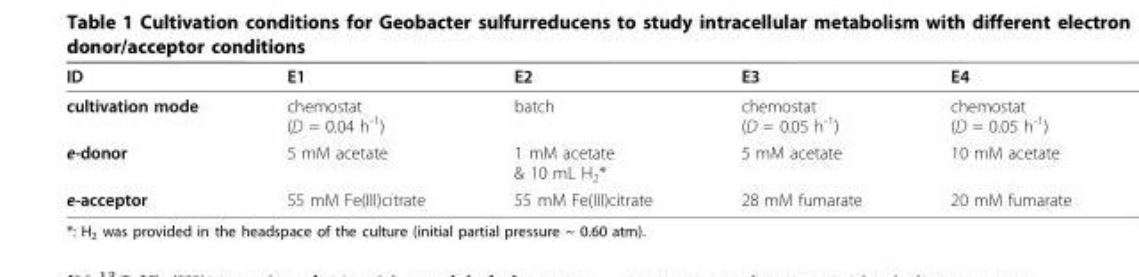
<table><thead><tr><td>ID</td><td>E1</td><td>E2</td><td>E3</td><td>E4</td></tr></thead><tbody><tr><td>cultivation mode</td><td>chemostat (D = 0.04 h<sup>-1</sup>)</td><td>batch</td><td>chemostat (D = 0.05 h<sup>-1</sup>)</td><td>chemostat (D = 0.05 h<sup>-1</sup>)</td></tr><tr><td>e-donor</td><td>5 mM acetate</td><td>1 mM acetate &amp; 10 mL H<sub>2</sub>*</td><td>5 mM acetate</td><td>10 mM acetate</td></tr><tr><td>e-acceptor</td><td>55 mM Fe(III)citrate</td><td>55 mM Fe(III)citrate</td><td>28 mM fumarate</td><td>20 mM fumarate</td></tr></tbody></table>